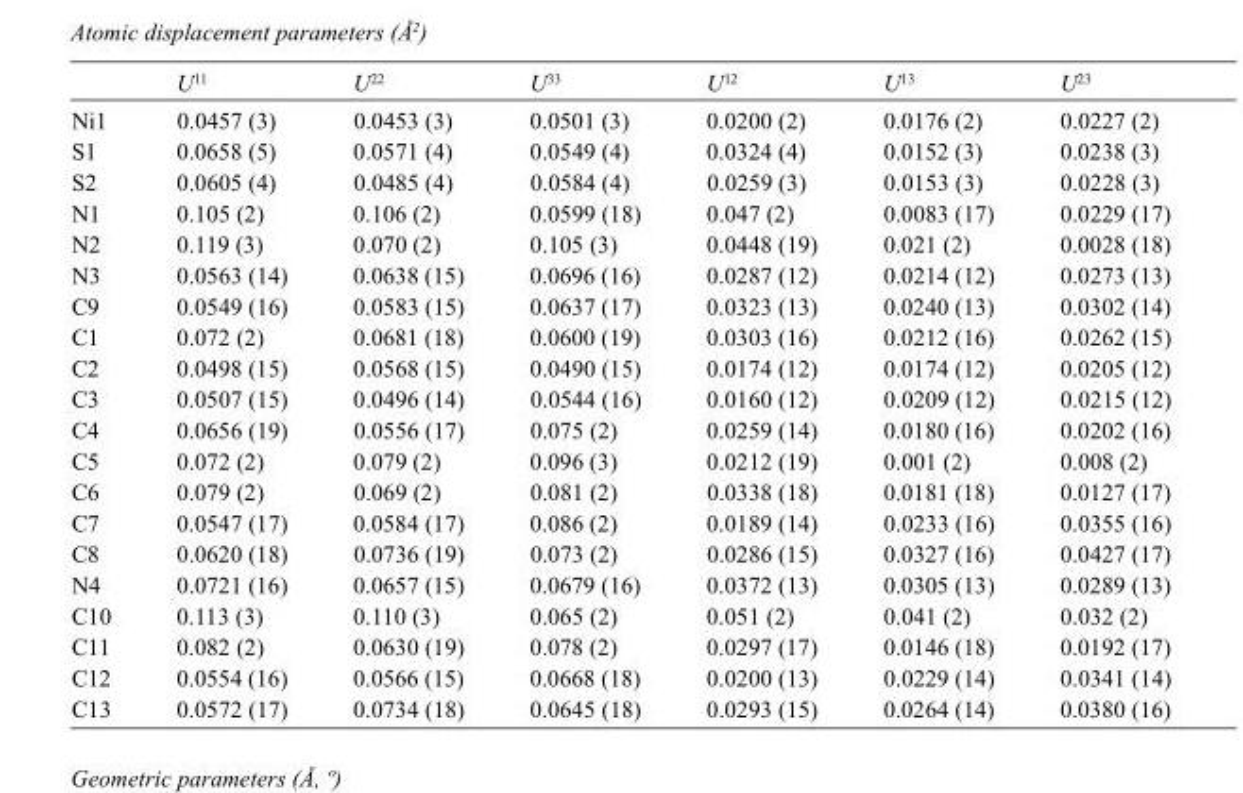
<table><thead><tr><td></td><td>U<sup>11</sup></td><td>U<sup>22</sup></td><td>U<sup>33</sup></td><td>U<sup>12</sup></td><td>U<sup>13</sup></td><td>U<sup>23</sup></td></tr></thead><tbody><tr><td>Ni1</td><td>0.0457 (3)</td><td>0.0453 (3)</td><td>0.0501 (3)</td><td>0.0200 (2)</td><td>0.0176 (2)</td><td>0.0227 (2)</td></tr><tr><td>S1</td><td>0.0658 (5)</td><td>0.0571 (4)</td><td>0.0549 (4)</td><td>0.0324 (4)</td><td>0.0152 (3)</td><td>0.0238 (3)</td></tr><tr><td>S2</td><td>0.0605 (4)</td><td>0.0485 (4)</td><td>0.0584 (4)</td><td>0.0259 (3)</td><td>0.0153 (3)</td><td>0.0228 (3)</td></tr><tr><td>N1</td><td>0.105 (2)</td><td>0.106 (2)</td><td>0.0599 (18)</td><td>0.047 (2)</td><td>0.0083 (17)</td><td>0.0229 (17)</td></tr><tr><td>N2</td><td>0.119 (3)</td><td>0.070 (2)</td><td>0.105 (3)</td><td>0.0448 (19)</td><td>0.021 (2)</td><td>0.0028 (18)</td></tr><tr><td>N3</td><td>0.0563 (14)</td><td>0.0638 (15)</td><td>0.0696 (16)</td><td>0.0287 (12)</td><td>0.0214 (12)</td><td>0.0273 (13)</td></tr><tr><td>C9</td><td>0.0549 (16)</td><td>0.0583 (15)</td><td>0.0637 (17)</td><td>0.0323 (13)</td><td>0.0240 (13)</td><td>0.0302 (14)</td></tr><tr><td>C1</td><td>0.072 (2)</td><td>0.0681 (18)</td><td>0.0600 (19)</td><td>0.0303 (16)</td><td>0.0212 (16)</td><td>0.0262 (15)</td></tr><tr><td>C2</td><td>0.0498 (15)</td><td>0.0568 (15)</td><td>0.0490 (15)</td><td>0.0174 (12)</td><td>0.0174 (12)</td><td>0.0205 (12)</td></tr><tr><td>C3</td><td>0.0507 (15)</td><td>0.0496 (14)</td><td>0.0544 (16)</td><td>0.0160 (12)</td><td>0.0209 (12)</td><td>0.0215 (12)</td></tr><tr><td>C4</td><td>0.0656 (19)</td><td>0.0556 (17)</td><td>0.075 (2)</td><td>0.0259 (14)</td><td>0.0180 (16)</td><td>0.0202 (16)</td></tr><tr><td>C5</td><td>0.072 (2)</td><td>0.079 (2)</td><td>0.096 (3)</td><td>0.0212 (19)</td><td>0.001 (2)</td><td>0.008 (2)</td></tr><tr><td>C6</td><td>0.079 (2)</td><td>0.069 (2)</td><td>0.081 (2)</td><td>0.0338 (18)</td><td>0.0181 (18)</td><td>0.0127 (17)</td></tr><tr><td>C7</td><td>0.0547 (17)</td><td>0.0584 (17)</td><td>0.086 (2)</td><td>0.0189 (14)</td><td>0.0233 (16)</td><td>0.0355 (16)</td></tr><tr><td>C8</td><td>0.0620 (18)</td><td>0.0736 (19)</td><td>0.073 (2)</td><td>0.0286 (15)</td><td>0.0327 (16)</td><td>0.0427 (17)</td></tr><tr><td>N4</td><td>0.0721 (16)</td><td>0.0657 (15)</td><td>0.0679 (16)</td><td>0.0372 (13)</td><td>0.0305 (13)</td><td>0.0289 (13)</td></tr><tr><td>C10</td><td>0.113 (3)</td><td>0.110 (3)</td><td>0.065 (2)</td><td>0.051 (2)</td><td>0.041 (2)</td><td>0.032 (2)</td></tr><tr><td>C11</td><td>0.082 (2)</td><td>0.0630 (19)</td><td>0.078 (2)</td><td>0.0297 (17)</td><td>0.0146 (18)</td><td>0.0192 (17)</td></tr><tr><td>C12</td><td>0.0554 (16)</td><td>0.0566 (15)</td><td>0.0668 (18)</td><td>0.0200 (13)</td><td>0.0229 (14)</td><td>0.0341 (14)</td></tr><tr><td>C13</td><td>0.0572 (17)</td><td>0.0734 (18)</td><td>0.0645 (18)</td><td>0.0293 (15)</td><td>0.0264 (14)</td><td>0.0380 (16)</td></tr></tbody></table>